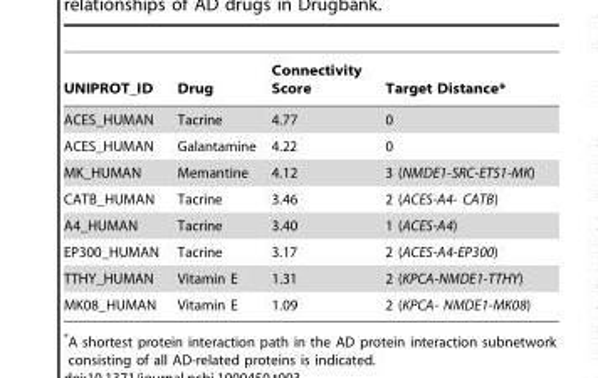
<table><thead><tr><td>UNIPROT_ID</td><td>Drug</td><td>Connectivity Score</td><td>Target Distance*</td></tr></thead><tbody><tr><td>ACES_HUMAN</td><td>Tacrine</td><td>4.77</td><td>0</td></tr><tr><td>ACES_HUMAN</td><td>Galantamine</td><td>4.22</td><td>0</td></tr><tr><td>MK_HUMAN</td><td>Memantine</td><td>4.12</td><td>3 (NMDE1-SRC-ETS1-MK)</td></tr><tr><td>CATB_HUMAN</td><td>Tacrine</td><td>3.46</td><td>2 (ACES-A4- CATB)</td></tr><tr><td>A4_HUMAN</td><td>Tacrine</td><td>3.40</td><td>1 (ACES-A4)</td></tr><tr><td>EP300_HUMAN</td><td>Tacrine</td><td>3.17</td><td>2 (ACES-A4-EP300)</td></tr><tr><td>TTHY_HUMAN</td><td>Vitamin E</td><td>1.31</td><td>2 (KPCA-NMDE1-TTHY)</td></tr><tr><td>MK08_HUMAN</td><td>Vitamin E</td><td>1.09</td><td>2 (KPCA- NMDE1-MK08)</td></tr></tbody></table>